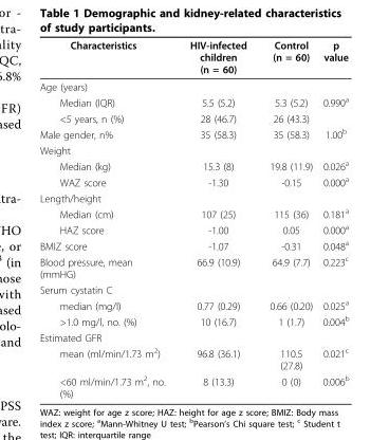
<table><thead><tr><td>Characteristics</td><td>HIV-infected children (n = 60)</td><td>Control (n = 60)</td><td>p value</td></tr></thead><tbody><tr><td colspan="4">Age (years)</td></tr><tr><td>Median (IQR)</td><td>5.5 (5.2)</td><td>5.3 (5.2)</td><td>0.990<sup>a</sup></td></tr><tr><td>&lt;5 years, n (%)</td><td>28 (46.7)</td><td>26 (43.3)</td><td></td></tr><tr><td>Male gender, n%</td><td>35 (58.3)</td><td>35 (58.3)</td><td>1.00<sup>b</sup></td></tr><tr><td colspan="4">Weight</td></tr><tr><td>Median (kg)</td><td>15.3 (8)</td><td>19.8 (11.9)</td><td>0.026<sup>a</sup></td></tr><tr><td>WAZ score</td><td>-1.30</td><td>-0.15</td><td>0.000<sup>a</sup></td></tr><tr><td colspan="4">Length/height</td></tr><tr><td>Median (cm)</td><td>107 (25)</td><td>115 (36)</td><td>0.181<sup>a</sup></td></tr><tr><td>HAZ score</td><td>-1.00</td><td>0.05</td><td>0.000<sup>a</sup></td></tr><tr><td>BMIZ score</td><td>-1.07</td><td>-0.31</td><td>0.048<sup>a</sup></td></tr><tr><td>Blood pressure, mean (mmHG)</td><td>66.9 (10.9)</td><td>64.9 (7.7)</td><td>0.223<sup>c</sup></td></tr><tr><td colspan="4">Serum cystatin C</td></tr><tr><td>median (mg/l)</td><td>0.77 (0.29)</td><td>0.66 (0.20)</td><td>0.025<sup>a</sup></td></tr><tr><td>&gt;1.0 mg/l, no. (%)</td><td>10 (16.7)</td><td>1 (1.7)</td><td>0.004<sup>b</sup></td></tr><tr><td colspan="4">Estimated GFR</td></tr><tr><td>mean (ml/min/1.73 m<sup>2</sup>)</td><td>96.8 (36.1)</td><td>110.5 (27.8)</td><td>0.021<sup>c</sup></td></tr><tr><td>&lt;60 ml/min/1.73 m<sup>2</sup>, no. (%)</td><td>8 (13.3)</td><td>0 (0)</td><td>0.006<sup>b</sup></td></tr></tbody></table>